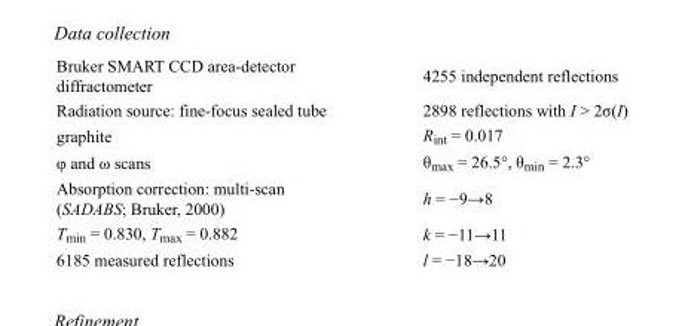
<table><tbody><tr><td>Bruker SMART CCD area-detector diffractometer</td><td>4255 independent reflections</td></tr><tr><td>Radiation source: fine-focus sealed tube</td><td>2898 reflections with I &gt; 2σ(I)</td></tr><tr><td>graphite</td><td>R<sub>int</sub> = 0.017</td></tr><tr><td>φ and ω scans</td><td>θ<sub>max</sub> = 26.5°, θ<sub>min</sub> = 2.3°</td></tr><tr><td>Absorption correction: multi-scan (SADABS; Bruker, 2000)</td><td>h = −9→8</td></tr><tr><td>T<sub>min</sub> = 0.830, T<sub>max</sub> = 0.882</td><td>k = −11→11</td></tr><tr><td>6185 measured reflections</td><td>l = −18→20</td></tr></tbody></table>